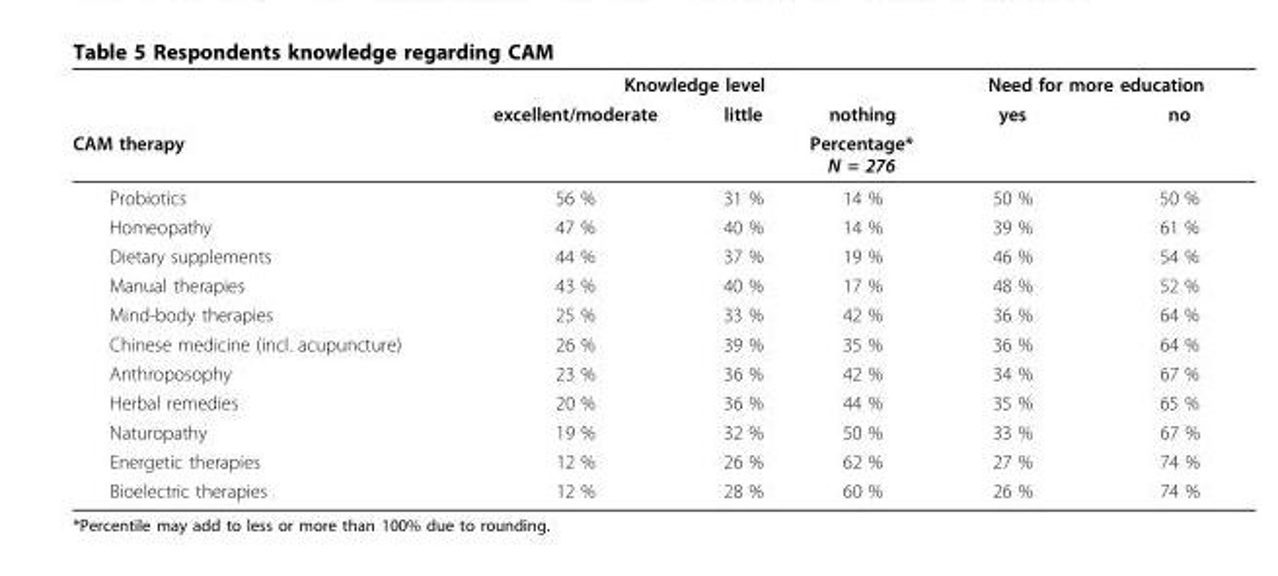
<table><thead><tr><td rowspan="2"></td><td colspan="3">Knowledge level</td><td colspan="2">Need for more education</td></tr><tr><td>excellent/moderate</td><td>little</td><td>nothing</td><td>yes</td><td>no</td></tr></thead><tbody><tr><td>CAM therapy</td><td colspan="5">Percentage* N = 276</td></tr><tr><td>Probiotics</td><td>56 %</td><td>31 %</td><td>14 %</td><td>50 %</td><td>50 %</td></tr><tr><td>Homeopathy</td><td>47 %</td><td>40 %</td><td>14 %</td><td>39 %</td><td>61 %</td></tr><tr><td>Dietary supplements</td><td>44 %</td><td>37 %</td><td>19 %</td><td>46 %</td><td>54 %</td></tr><tr><td>Manual therapies</td><td>43 %</td><td>40 %</td><td>17 %</td><td>48 %</td><td>52 %</td></tr><tr><td>Mind-body therapies</td><td>25 %</td><td>33 %</td><td>42 %</td><td>36 %</td><td>64 %</td></tr><tr><td>Chinese medicine (incl. acupuncture)</td><td>26 %</td><td>39 %</td><td>35 %</td><td>36 %</td><td>64 %</td></tr><tr><td>Anthroposophy</td><td>23 %</td><td>36 %</td><td>42 %</td><td>34 %</td><td>67 %</td></tr><tr><td>Herbal remedies</td><td>20 %</td><td>36 %</td><td>44 %</td><td>35 %</td><td>65 %</td></tr><tr><td>Naturopathy</td><td>19 %</td><td>32 %</td><td>50 %</td><td>33 %</td><td>67 %</td></tr><tr><td>Energetic therapies</td><td>12 %</td><td>26 %</td><td>62 %</td><td>27 %</td><td>74 %</td></tr><tr><td>Bioelectric therapies</td><td>12 %</td><td>28 %</td><td>60 %</td><td>26 %</td><td>74 %</td></tr></tbody></table>